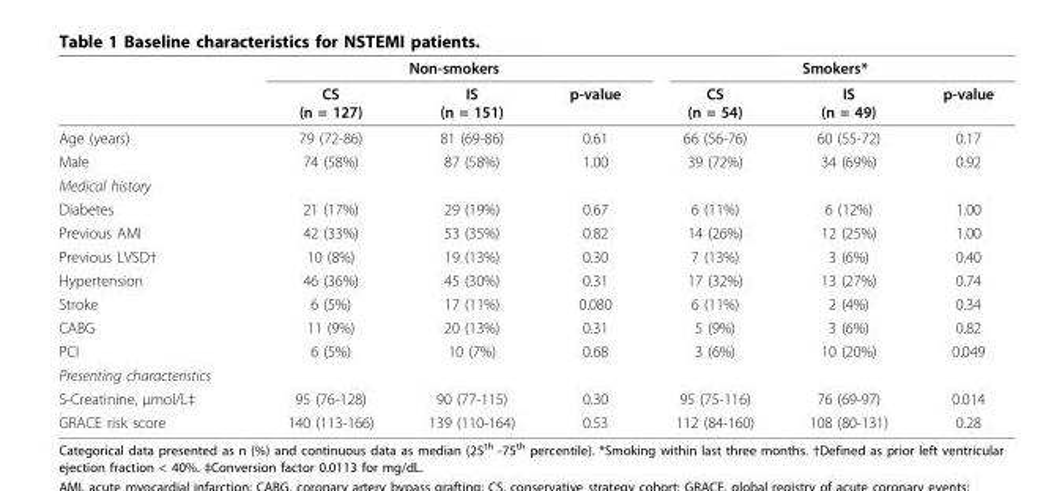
<table><thead><tr><td rowspan="2"></td><td colspan="3">Non-smokers</td><td colspan="3">Smokers*</td></tr><tr><td>CS (n = 127)</td><td>IS (n = 151)</td><td>p-value</td><td>CS (n = 54)</td><td>IS (n = 49)</td><td>p-value</td></tr></thead><tbody><tr><td>Age (years)</td><td>79 (72-86)</td><td>81 (69-86)</td><td>0.61</td><td>66 (56-76)</td><td>60 (55-72)</td><td>0.17</td></tr><tr><td>Male</td><td>74 (58%)</td><td>87 (58%)</td><td>1.00</td><td>39 (72%)</td><td>34 (69%)</td><td>0.92</td></tr><tr><td colspan="7">Medical history</td></tr><tr><td>Diabetes</td><td>21 (17%)</td><td>29 (19%)</td><td>0.67</td><td>6 (11%)</td><td>6 (12%)</td><td>1.00</td></tr><tr><td>Previous AMI</td><td>42 (33%)</td><td>53 (35%)</td><td>0.82</td><td>14 (26%)</td><td>12 (25%)</td><td>1.00</td></tr><tr><td>Previous LVSD†</td><td>10 (8%)</td><td>19 (13%)</td><td>0.30</td><td>7 (13%)</td><td>3 (6%)</td><td>0.40</td></tr><tr><td>Hypertension</td><td>46 (36%)</td><td>45 (30%)</td><td>0.31</td><td>17 (32%)</td><td>13 (27%)</td><td>0.74</td></tr><tr><td>Stroke</td><td>6 (5%)</td><td>17 (11%)</td><td>0.080</td><td>6 (11%)</td><td>2 (4%)</td><td>0.34</td></tr><tr><td>CABG</td><td>11 (9%)</td><td>20 (13%)</td><td>0.31</td><td>5 (9%)</td><td>3 (6%)</td><td>0.82</td></tr><tr><td>PCI</td><td>6 (5%)</td><td>10 (7%)</td><td>0.68</td><td>3 (6%)</td><td>10 (20%)</td><td>0.049</td></tr><tr><td colspan="7">Presenting characteristics</td></tr><tr><td>S-Creatinine, μmol/L‡</td><td>95 (76-128)</td><td>90 (77-115)</td><td>0.30</td><td>95 (75-116)</td><td>76 (69-97)</td><td>0.014</td></tr><tr><td>GRACE risk score</td><td>140 (113-166)</td><td>139 (110-164)</td><td>0.53</td><td>112 (84-160)</td><td>108 (80-131)</td><td>0.28</td></tr></tbody></table>